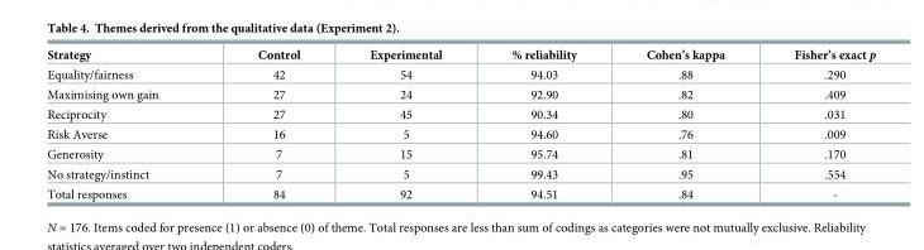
<table><thead><tr><td>Strategy</td><td>Control</td><td>Experimental</td><td>% reliability</td><td>Cohen’s kappa</td><td>Fisher’s exact p</td></tr></thead><tbody><tr><td>Equality/fairness</td><td>42</td><td>54</td><td>94.03</td><td>.88</td><td>.290</td></tr><tr><td>Maximising own gain</td><td>27</td><td>24</td><td>92.90</td><td>.82</td><td>.409</td></tr><tr><td>Reciprocity</td><td>27</td><td>45</td><td>90.34</td><td>.80</td><td>.031</td></tr><tr><td>Risk Averse</td><td>16</td><td>5</td><td>94.60</td><td>.76</td><td>.009</td></tr><tr><td>Generosity</td><td>7</td><td>15</td><td>95.74</td><td>.81</td><td>.170</td></tr><tr><td>No strategy/instinct</td><td>7</td><td>5</td><td>99.43</td><td>.95</td><td>.554</td></tr><tr><td>Total responses</td><td>84</td><td>92</td><td>94.51</td><td>.84</td><td>-</td></tr></tbody></table>